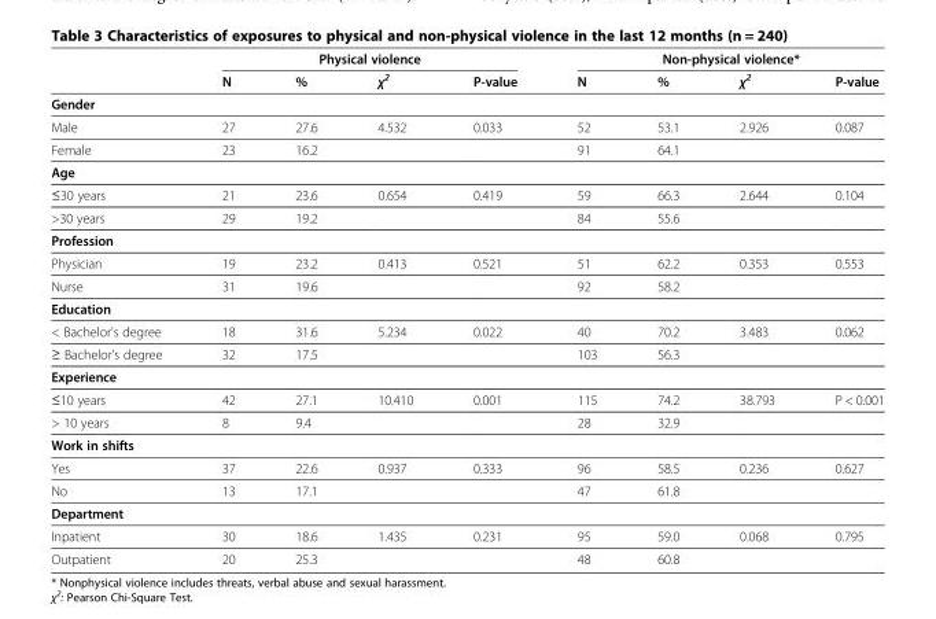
<table><thead><tr><td rowspan="2"></td><td colspan="4">Physical violence</td><td colspan="4">Non-physical violence*</td></tr><tr><td>N</td><td>%</td><td>χ<sup>2</sup></td><td>P-value</td><td>N</td><td>%</td><td>χ<sup>2</sup></td><td>P-value</td></tr></thead><tbody><tr><td colspan="9">Gender</td></tr><tr><td>Male</td><td>27</td><td>27.6</td><td>4.532</td><td>0.033</td><td>52</td><td>53.1</td><td>2.926</td><td>0.087</td></tr><tr><td>Female</td><td>23</td><td>16.2</td><td></td><td></td><td>91</td><td>64.1</td><td></td><td></td></tr><tr><td colspan="9">Age</td></tr><tr><td>≤30 years</td><td>21</td><td>23.6</td><td>0.654</td><td>0.419</td><td>59</td><td>66.3</td><td>2.644</td><td>0.104</td></tr><tr><td>&gt;30 years</td><td>29</td><td>19.2</td><td></td><td></td><td>84</td><td>55.6</td><td></td><td></td></tr><tr><td colspan="9">Profession</td></tr><tr><td>Physician</td><td>19</td><td>23.2</td><td>0.413</td><td>0.521</td><td>51</td><td>62.2</td><td>0.353</td><td>0.553</td></tr><tr><td>Nurse</td><td>31</td><td>19.6</td><td></td><td></td><td>92</td><td>58.2</td><td></td><td></td></tr><tr><td colspan="9">Education</td></tr><tr><td>&lt; Bachelor&#x27;s degree</td><td>18</td><td>31.6</td><td>5.234</td><td>0.022</td><td>40</td><td>70.2</td><td>3.483</td><td>0.062</td></tr><tr><td>≥ Bachelor&#x27;s degree</td><td>32</td><td>17.5</td><td></td><td></td><td>103</td><td>56.3</td><td></td><td></td></tr><tr><td colspan="9">Experience</td></tr><tr><td>≤10 years</td><td>42</td><td>27.1</td><td>10.410</td><td>0.001</td><td>115</td><td>74.2</td><td>38.793</td><td>P &lt; 0.001</td></tr><tr><td>&gt; 10 years</td><td>8</td><td>9.4</td><td></td><td></td><td>28</td><td>32.9</td><td></td><td></td></tr><tr><td colspan="9">Work in shifts</td></tr><tr><td>Yes</td><td>37</td><td>22.6</td><td>0.937</td><td>0.333</td><td>96</td><td>58.5</td><td>0.236</td><td>0.627</td></tr><tr><td>No</td><td>13</td><td>17.1</td><td></td><td></td><td>47</td><td>61.8</td><td></td><td></td></tr><tr><td colspan="9">Department</td></tr><tr><td>Inpatient</td><td>30</td><td>18.6</td><td>1.435</td><td>0.231</td><td>95</td><td>59.0</td><td>0.068</td><td>0.795</td></tr><tr><td>Outpatient</td><td>20</td><td>25.3</td><td></td><td></td><td>48</td><td>60.8</td><td></td><td></td></tr></tbody></table>